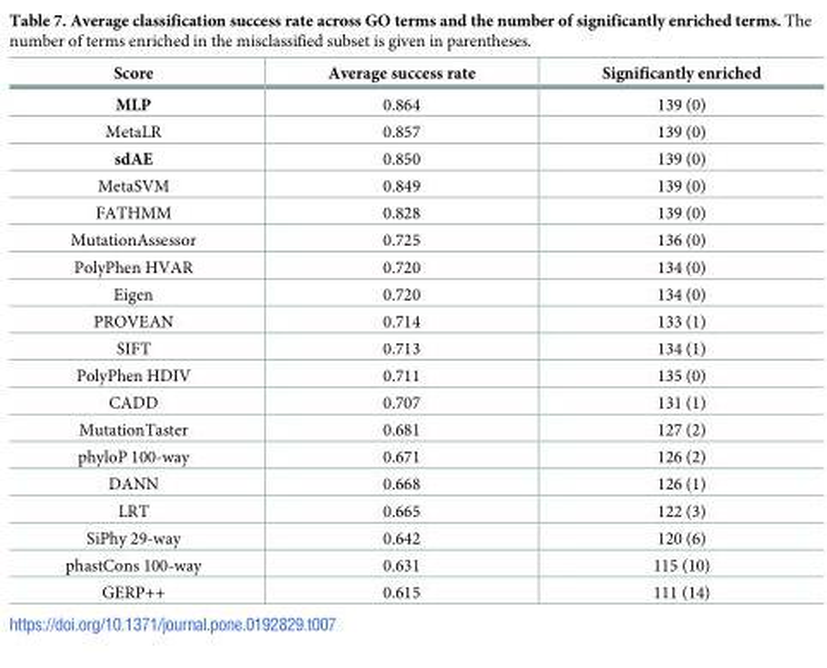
<table><thead><tr><td>Score</td><td>Average success rate</td><td>Significantly enriched</td></tr></thead><tbody><tr><td>MLP</td><td>0.864</td><td>139 (0)</td></tr><tr><td>MetaLR</td><td>0.857</td><td>139 (0)</td></tr><tr><td>sdAE</td><td>0.850</td><td>139 (0)</td></tr><tr><td>MetaSVM</td><td>0.849</td><td>139 (0)</td></tr><tr><td>FATHMM</td><td>0.828</td><td>139 (0)</td></tr><tr><td>MutationAssessor</td><td>0.725</td><td>136 (0)</td></tr><tr><td>PolyPhen HVAR</td><td>0.720</td><td>134 (0)</td></tr><tr><td>Eigen</td><td>0.720</td><td>134 (0)</td></tr><tr><td>PROVEAN</td><td>0.714</td><td>133 (1)</td></tr><tr><td>SIFT</td><td>0.713</td><td>134 (1)</td></tr><tr><td>PolyPhen HDIV</td><td>0.711</td><td>135 (0)</td></tr><tr><td>CADD</td><td>0.707</td><td>131 (1)</td></tr><tr><td>MutationTaster</td><td>0.681</td><td>127 (2)</td></tr><tr><td>phyloP 100-way</td><td>0.671</td><td>126 (2)</td></tr><tr><td>DANN</td><td>0.668</td><td>126 (1)</td></tr><tr><td>LRT</td><td>0.665</td><td>122 (3)</td></tr><tr><td>SiPhy 29-way</td><td>0.642</td><td>120 (6)</td></tr><tr><td>phastCons 100-way</td><td>0.631</td><td>115 (10)</td></tr><tr><td>GERP++</td><td>0.615</td><td>111 (14)</td></tr></tbody></table>